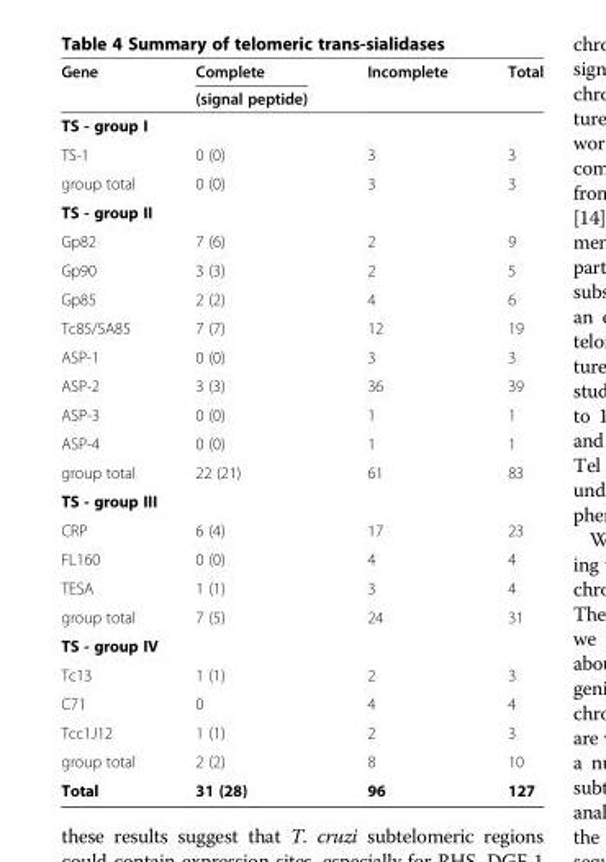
<table><thead><tr><td rowspan="2">Gene</td><td rowspan="2">Complete (signal peptide)</td><td rowspan="2">Incomplete</td><td rowspan="2">Total</td></tr><tr></tr></thead><tbody><tr><td colspan="4">TS - group I</td></tr><tr><td>TS-1</td><td>0 (0)</td><td>3</td><td>3</td></tr><tr><td>group total</td><td>0 (0)</td><td>3</td><td>3</td></tr><tr><td colspan="4">TS - group II</td></tr><tr><td>Gp82</td><td>7 (6)</td><td>2</td><td>9</td></tr><tr><td>Gp90</td><td>3 (3)</td><td>2</td><td>5</td></tr><tr><td>Gp85</td><td>2 (2)</td><td>4</td><td>6</td></tr><tr><td>Tc85/SA85</td><td>7 (7)</td><td>12</td><td>19</td></tr><tr><td>ASP-1</td><td>0 (0)</td><td>3</td><td>3</td></tr><tr><td>ASP-2</td><td>3 (3)</td><td>36</td><td>39</td></tr><tr><td>ASP-3</td><td>0 (0)</td><td>1</td><td>1</td></tr><tr><td>ASP-4</td><td>0 (0)</td><td>1</td><td>1</td></tr><tr><td>group total</td><td>22 (21)</td><td>61</td><td>83</td></tr><tr><td colspan="4">TS - group III</td></tr><tr><td>CRP</td><td>6 (4)</td><td>17</td><td>23</td></tr><tr><td>FL160</td><td>0 (0)</td><td>4</td><td>4</td></tr><tr><td>TESA</td><td>1 (1)</td><td>3</td><td>4</td></tr><tr><td>group total</td><td>7 (5)</td><td>24</td><td>31</td></tr><tr><td colspan="4">TS - group IV</td></tr><tr><td>Tc13</td><td>1 (1)</td><td>2</td><td>3</td></tr><tr><td>C71</td><td>0</td><td>4</td><td>4</td></tr><tr><td>Tcc1J12</td><td>1 (1)</td><td>2</td><td>3</td></tr><tr><td>group total</td><td>2 (2)</td><td>8</td><td>10</td></tr><tr><td>Total</td><td>31 (28)</td><td>96</td><td>127</td></tr></tbody></table>